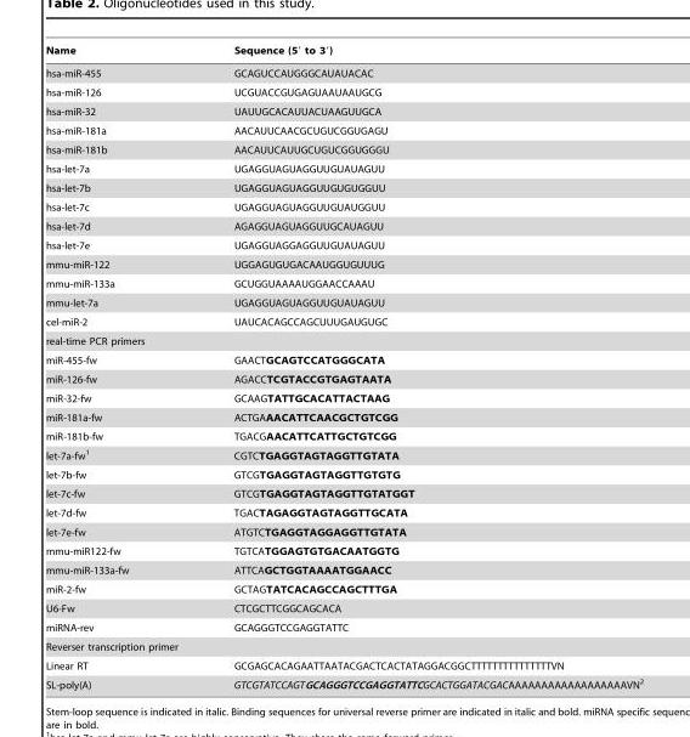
<table><thead><tr><td>Name</td><td>Sequence (5′ to 3′)</td></tr></thead><tbody><tr><td>hsa-miR-455</td><td>GCAGUCCAUGGGCAUAUACAC</td></tr><tr><td>hsa-miR-126</td><td>UCGUACCGUGAGUAAUAAUGCG</td></tr><tr><td>hsa-miR-32</td><td>UAUUGCACAUUACUAAGUUGCA</td></tr><tr><td>hsa-miR-181a</td><td>AACAUUCAACGCUGUCGGUGAGU</td></tr><tr><td>hsa-miR-181b</td><td>AACAUUCAUUGCUGUCGGUGGGU</td></tr><tr><td>hsa-let-7a</td><td>UGAGGUAGUAGGUUGUAUAGUU</td></tr><tr><td>hsa-let-7b</td><td>UGAGGUAGUAGGUUGUGUGGUU</td></tr><tr><td>hsa-let-7c</td><td>UGAGGUAGUAGGUUGUAUGGUU</td></tr><tr><td>hsa-let-7d</td><td>AGAGGUAGUAGGUUGCAUAGUU</td></tr><tr><td>hsa-let-7e</td><td>UGAGGUAGGAGGUUGUAUAGUU</td></tr><tr><td>mmu-miR-122</td><td>UGGAGUGUGACAAUGGUGUUUG</td></tr><tr><td>mmu-miR-133a</td><td>GCUGGUAAAAUGGAACCAAAU</td></tr><tr><td>mmu-let-7a</td><td>UGAGGUAGUAGGUUGUAUAGUU</td></tr><tr><td>cel-miR-2</td><td>UAUCACAGCCAGCUUUGAUGUGC</td></tr><tr><td colspan="2">real-time PCR primers</td></tr><tr><td>miR-455-fw</td><td>GAACTGCAGTCCATGGGCATA</td></tr><tr><td>miR-126-fw</td><td>AGACCTCGTACCGTGAGTAATA</td></tr><tr><td>miR-32-fw</td><td>GCAAGTATTGCACATTACTAAG</td></tr><tr><td>miR-181a-fw</td><td>ACTGAAACATTCAACGCTGTCGG</td></tr><tr><td>miR-181b-fw</td><td>TGACGAACATTCATTGCTGTCGG</td></tr><tr><td>let-7a-fw<sup>1</sup></td><td>CGTCTGAGGTAGTAGGTTGTATA</td></tr><tr><td>let-7b-fw</td><td>GTCGTGAGGTAGTAGGTTGTGTG</td></tr><tr><td>let-7c-fw</td><td>GTCGTGAGGTAGTAGGTTGTATGGT</td></tr><tr><td>let-7d-fw</td><td>TGACTAGAGGTAGTAGGTTGCATA</td></tr><tr><td>let-7e-fw</td><td>ATGTCTGAGGTAGGAGGTTGTATA</td></tr><tr><td>mmu-miR122-fw</td><td>TGTCATGGAGTGTGACAATGGTG</td></tr><tr><td>mmu-miR-133a-fw</td><td>ATTCAGCTGGTAAAATGGAACC</td></tr><tr><td>miR-2-fw</td><td>GCTAGTATCACAGCCAGCTTTGA</td></tr><tr><td>U6-Fw</td><td>CTCGCTTCGGCAGCACA</td></tr><tr><td>miRNA-rev</td><td>GCAGGGTCCGAGGTATTC</td></tr><tr><td colspan="2">Reverser transcription primer</td></tr><tr><td>Linear RT</td><td>GCGAGCACAGAATTAATACGACTCACTATAGGACGGCTTTTTTTTTTTTTTTVN</td></tr><tr><td>SL-poly(A)</td><td>GTCGTATCCAGTGCAGGGTCCGAGGTATTCGCACTGGATACGACAAAAAAAAAAAAAAAAAAVN<sup>2</sup></td></tr></tbody></table>